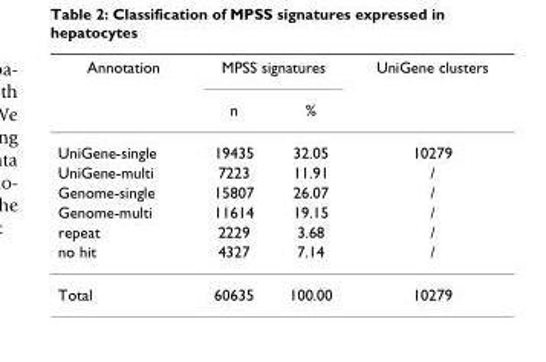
<table><thead><tr><td rowspan="2">Annotation</td><td colspan="2">MPSS signatures</td><td rowspan="2">UniGene clusters</td></tr><tr><td>n</td><td>%</td></tr></thead><tbody><tr><td>UniGene-single</td><td>19435</td><td>32.05</td><td>10279</td></tr><tr><td>UniGene-multi</td><td>7223</td><td>11.91</td><td>/</td></tr><tr><td>Genome-single</td><td>15807</td><td>26.07</td><td>/</td></tr><tr><td>Genome-multi</td><td>11614</td><td>19.15</td><td>/</td></tr><tr><td>repeat</td><td>2229</td><td>3.68</td><td>/</td></tr><tr><td>no hit</td><td>4327</td><td>7.14</td><td>/</td></tr><tr><td>Total</td><td>60635</td><td>100.00</td><td>10279</td></tr></tbody></table>